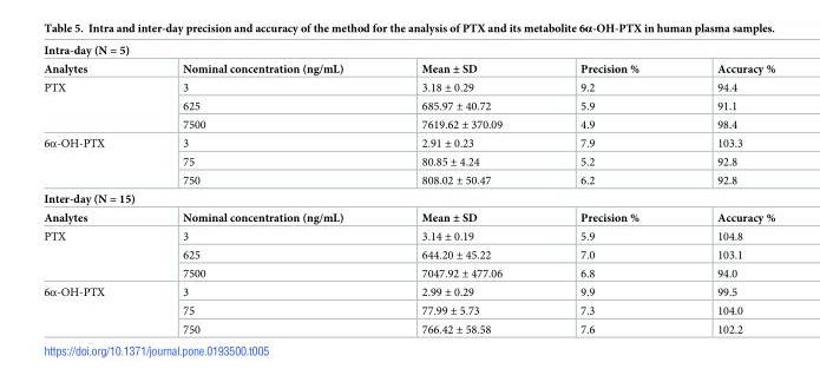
<table><tbody><tr><td colspan="5">Intra-day (N = 5)</td></tr><tr><td>Analytes</td><td>Nominal concentration (ng/mL)</td><td>Mean ± SD</td><td>Precision %</td><td>Accuracy %</td></tr><tr><td rowspan="3">PTX</td><td>3</td><td>3.18 ± 0.29</td><td>9.2</td><td>94.4</td></tr><tr><td>625</td><td>685.97 ± 40.72</td><td>5.9</td><td>91.1</td></tr><tr><td>7500</td><td>7619.62 ± 370.09</td><td>4.9</td><td>98.4</td></tr><tr><td rowspan="3">6α-OH-PTX</td><td>3</td><td>2.91 ± 0.23</td><td>7.9</td><td>103.3</td></tr><tr><td>75</td><td>80.85 ± 4.24</td><td>5.2</td><td>92.8</td></tr><tr><td>750</td><td>808.02 ± 50.47</td><td>6.2</td><td>92.8</td></tr><tr><td colspan="5">Inter-day (N = 15)</td></tr><tr><td>Analytes</td><td>Nominal concentration (ng/mL)</td><td>Mean ± SD</td><td>Precision %</td><td>Accuracy %</td></tr><tr><td rowspan="3">PTX</td><td>3</td><td>3.14 ± 0.19</td><td>5.9</td><td>104.8</td></tr><tr><td>625</td><td>644.20 ± 45.22</td><td>7.0</td><td>103.1</td></tr><tr><td>7500</td><td>7047.92 ± 477.06</td><td>6.8</td><td>94.0</td></tr><tr><td rowspan="3">6α-OH-PTX</td><td>3</td><td>2.99 ± 0.29</td><td>9.9</td><td>99.5</td></tr><tr><td>75</td><td>77.99 ± 5.73</td><td>7.3</td><td>104.0</td></tr><tr><td>750</td><td>766.42 ± 58.58</td><td>7.6</td><td>102.2</td></tr></tbody></table>